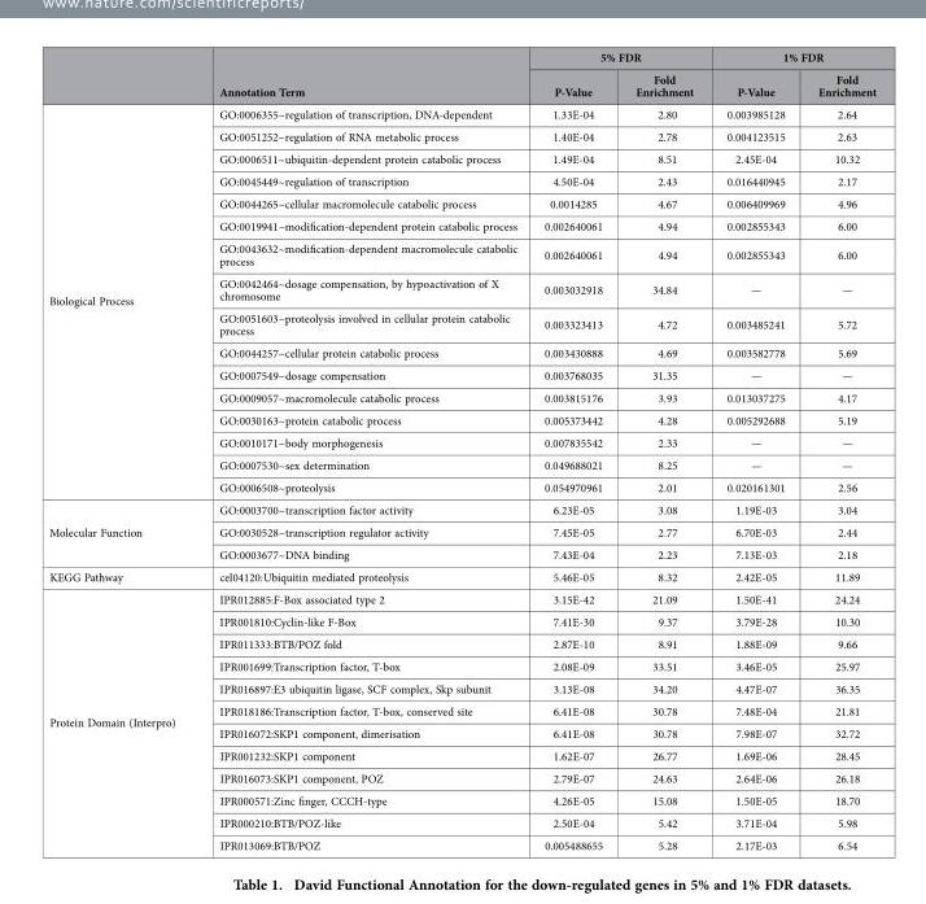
<table><thead><tr><td rowspan="2"></td><td rowspan="2">Annotation Term</td><td colspan="2">5% FDR</td><td colspan="2">1% FDR</td></tr><tr><td>P-Value</td><td>Fold Enrichment</td><td>P-Value</td><td>Fold Enrichment</td></tr></thead><tbody><tr><td rowspan="16">Biological Process</td><td>GO:0006355~regulation of transcription, DNA-dependent</td><td>1.33E-04</td><td>2.80</td><td>0.003985128</td><td>2.64</td></tr><tr><td>GO:0051252~regulation of RNA metabolic process</td><td>1.40E-04</td><td>2.78</td><td>0.004123515</td><td>2.63</td></tr><tr><td>GO:0006511~ubiquitin-dependent protein catabolic process</td><td>1.49E-04</td><td>8.51</td><td>2.45E-04</td><td>10.32</td></tr><tr><td>GO:0045449~regulation of transcription</td><td>4.50E-04</td><td>2.43</td><td>0.016440945</td><td>2.17</td></tr><tr><td>GO:0044265~cellular macromolecule catabolic process</td><td>0.0014285</td><td>4.67</td><td>0.006409969</td><td>4.96</td></tr><tr><td>GO:0019941~modification-dependent protein catabolic process</td><td>0.002640061</td><td>4.94</td><td>0.002855343</td><td>6.00</td></tr><tr><td>GO:0043632~modification-dependent macromolecule catabolic process</td><td>0.002640061</td><td>4.94</td><td>0.002855343</td><td>6.00</td></tr><tr><td>GO:0042464~dosage compensation, by hypoactivation of X chromosome</td><td>0.003032918</td><td>34.84</td><td>—</td><td>—</td></tr><tr><td>GO:0051603~proteolysis involved in cellular protein catabolic process</td><td>0.003323413</td><td>4.72</td><td>0.003485241</td><td>5.72</td></tr><tr><td>GO:0044257~cellular protein catabolic process</td><td>0.003430888</td><td>4.69</td><td>0.003582778</td><td>5.69</td></tr><tr><td>GO:0007549~dosage compensation</td><td>0.003768035</td><td>31.35</td><td>—</td><td>—</td></tr><tr><td>GO:0009057~macromolecule catabolic process</td><td>0.003815176</td><td>3.93</td><td>0.013037275</td><td>4.17</td></tr><tr><td>GO:0030163~protein catabolic process</td><td>0.005373442</td><td>4.28</td><td>0.005292688</td><td>5.19</td></tr><tr><td>GO:0010171~body morphogenesis</td><td>0.007835542</td><td>2.33</td><td>—</td><td>—</td></tr><tr><td>GO:0007530~sex determination</td><td>0.049688021</td><td>8.25</td><td>—</td><td>—</td></tr><tr><td>GO:0006508~proteolysis</td><td>0.054970961</td><td>2.01</td><td>0.020161301</td><td>2.56</td></tr><tr><td rowspan="3">Molecular Function</td><td>GO:0003700~transcription factor activity</td><td>6.23E-05</td><td>3.08</td><td>1.19E-03</td><td>3.04</td></tr><tr><td>GO:0030528~transcription regulator activity</td><td>7.45E-05</td><td>2.77</td><td>6.70E-03</td><td>2.44</td></tr><tr><td>GO:0003677~DNA binding</td><td>7.43E-04</td><td>2.23</td><td>7.13E-03</td><td>2.18</td></tr><tr><td>KEGG Pathway</td><td>cel04120:Ubiquitin mediated proteolysis</td><td>5.46E-05</td><td>8.32</td><td>2.42E-05</td><td>11.89</td></tr><tr><td rowspan="12">Protein Domain (Interpro)</td><td>IPR012885:F-Box associated type 2</td><td>3.15E-42</td><td>21.09</td><td>1.50E-41</td><td>24.24</td></tr><tr><td>IPR001810:Cyclin-like F-Box</td><td>7.41E-30</td><td>9.37</td><td>3.79E-28</td><td>10.30</td></tr><tr><td>IPR011333:BTB/POZ fold</td><td>2.87E-10</td><td>8.91</td><td>1.88E-09</td><td>9.66</td></tr><tr><td>IPR001699:Transcription factor, T-box</td><td>2.08E-09</td><td>33.51</td><td>3.46E-05</td><td>25.97</td></tr><tr><td>IPR016897:E3 ubiquitin ligase, SCF complex, Skp subunit</td><td>3.13E-08</td><td>34.20</td><td>4.47E-07</td><td>36.35</td></tr><tr><td>IPR018186:Transcription factor, T-box, conserved site</td><td>6.41E-08</td><td>30.78</td><td>7.48E-04</td><td>21.81</td></tr><tr><td>IPR016072:SKP1 component, dimerisation</td><td>6.41E-08</td><td>30.78</td><td>7.98E-07</td><td>32.72</td></tr><tr><td>IPR001232:SKP1 component</td><td>1.62E-07</td><td>26.77</td><td>1.69E-06</td><td>28.45</td></tr><tr><td>IPR016073:SKP1 component, POZ</td><td>2.79E-07</td><td>24.63</td><td>2.64E-06</td><td>26.18</td></tr><tr><td>IPR000571:Zinc finger, CCCH-type</td><td>4.26E-05</td><td>15.08</td><td>1.50E-05</td><td>18.70</td></tr><tr><td>IPR000210:BTB/POZ-like</td><td>2.50E-04</td><td>5.42</td><td>3.71E-04</td><td>5.98</td></tr><tr><td>IPR013069:BTB/POZ</td><td>0.005488655</td><td>5.28</td><td>2.17E-03</td><td>6.54</td></tr></tbody></table>